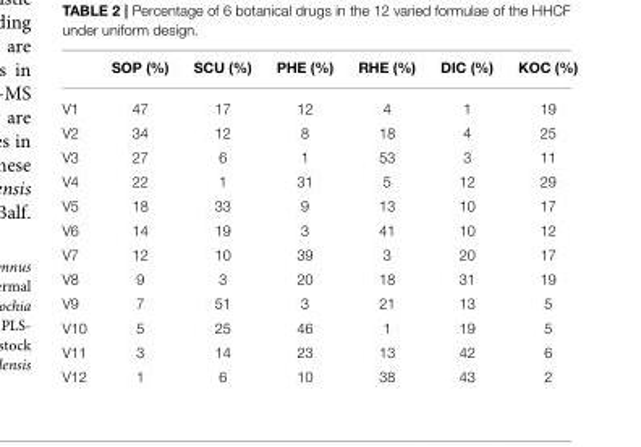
<table><thead><tr><td></td><td>SOP (%)</td><td>SCU (%)</td><td>PHE (%)</td><td>RHE (%)</td><td>DIC (%)</td><td>KOC (%)</td></tr></thead><tbody><tr><td>V1</td><td>47</td><td>17</td><td>12</td><td>4</td><td>1</td><td>19</td></tr><tr><td>V2</td><td>34</td><td>12</td><td>8</td><td>18</td><td>4</td><td>25</td></tr><tr><td>V3</td><td>27</td><td>6</td><td>1</td><td>53</td><td>3</td><td>11</td></tr><tr><td>V4</td><td>22</td><td>1</td><td>31</td><td>5</td><td>12</td><td>29</td></tr><tr><td>V5</td><td>18</td><td>33</td><td>9</td><td>13</td><td>10</td><td>17</td></tr><tr><td>V6</td><td>14</td><td>19</td><td>3</td><td>41</td><td>10</td><td>12</td></tr><tr><td>V7</td><td>12</td><td>10</td><td>39</td><td>3</td><td>20</td><td>17</td></tr><tr><td>V8</td><td>9</td><td>3</td><td>20</td><td>18</td><td>31</td><td>19</td></tr><tr><td>V9</td><td>7</td><td>51</td><td>3</td><td>21</td><td>13</td><td>5</td></tr><tr><td>V10</td><td>5</td><td>25</td><td>46</td><td>1</td><td>19</td><td>5</td></tr><tr><td>V11</td><td>3</td><td>14</td><td>23</td><td>13</td><td>42</td><td>6</td></tr><tr><td>V12</td><td>1</td><td>6</td><td>10</td><td>38</td><td>43</td><td>2</td></tr></tbody></table>